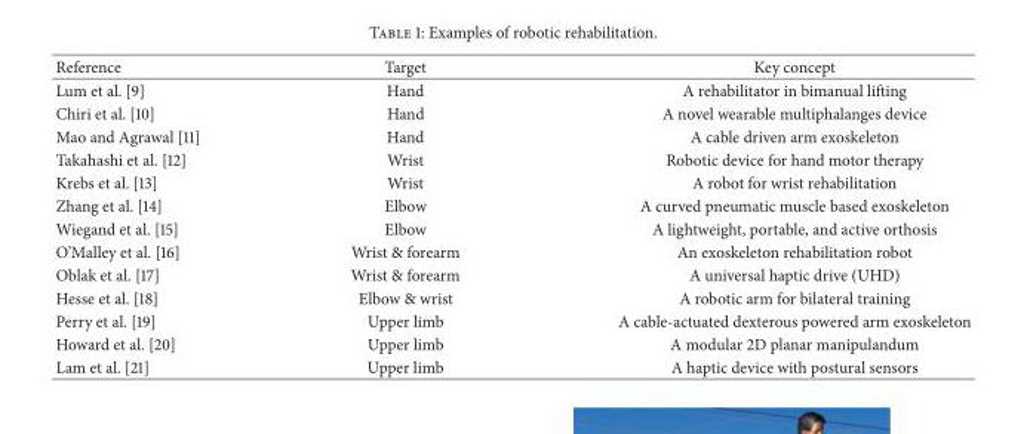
<table><thead><tr><td>Reference</td><td>Target</td><td>Key concept</td></tr></thead><tbody><tr><td>Lum et al. [9]</td><td>Hand</td><td>A rehabilitator in bimanual lifting</td></tr><tr><td>Chiri et al. [10]</td><td>Hand</td><td>A novel wearable multiphalanges device</td></tr><tr><td>Mao and Agrawal [11]</td><td>Hand</td><td>A cable driven arm exoskeleton</td></tr><tr><td>Takahashi et al. [12]</td><td>Wrist</td><td>Robotic device for hand motor therapy</td></tr><tr><td>Krebs et al. [13]</td><td>Wrist</td><td>A robot for wrist rehabilitation</td></tr><tr><td>Zhang et al. [14]</td><td>Elbow</td><td>A curved pneumatic muscle based exoskeleton</td></tr><tr><td>Wiegand et al. [15]</td><td>Elbow</td><td>A lightweight, portable, and active orthosis</td></tr><tr><td>O’Malley et al. [16]</td><td>Wrist &amp; forearm</td><td>An exoskeleton rehabilitation robot</td></tr><tr><td>Oblak et al. [17]</td><td>Wrist &amp; forearm</td><td>A universal haptic drive (UHD)</td></tr><tr><td>Hesse et al. [18]</td><td>Elbow &amp; wrist</td><td>A robotic arm for bilateral training</td></tr><tr><td>Perry et al. [19]</td><td>Upper limb</td><td>A cable-actuated dexterous powered arm exoskeleton</td></tr><tr><td>Howard et al. [20]</td><td>Upper limb</td><td>A modular 2D planar manipulandum</td></tr><tr><td>Lam et al. [21]</td><td>Upper limb</td><td>A haptic device with postural sensors</td></tr></tbody></table>